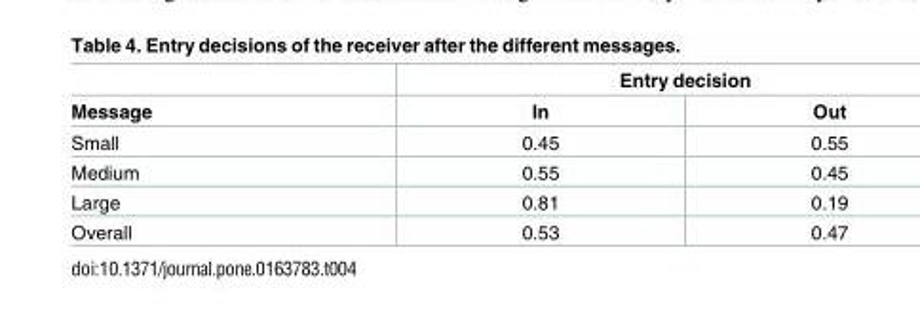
<table><thead><tr><td rowspan="2">Message</td><td colspan="2">Entry decision</td></tr><tr><td>In</td><td>Out</td></tr></thead><tbody><tr><td>Small</td><td>0.45</td><td>0.55</td></tr><tr><td>Medium</td><td>0.55</td><td>0.45</td></tr><tr><td>Large</td><td>0.81</td><td>0.19</td></tr><tr><td>Overall</td><td>0.53</td><td>0.47</td></tr></tbody></table>